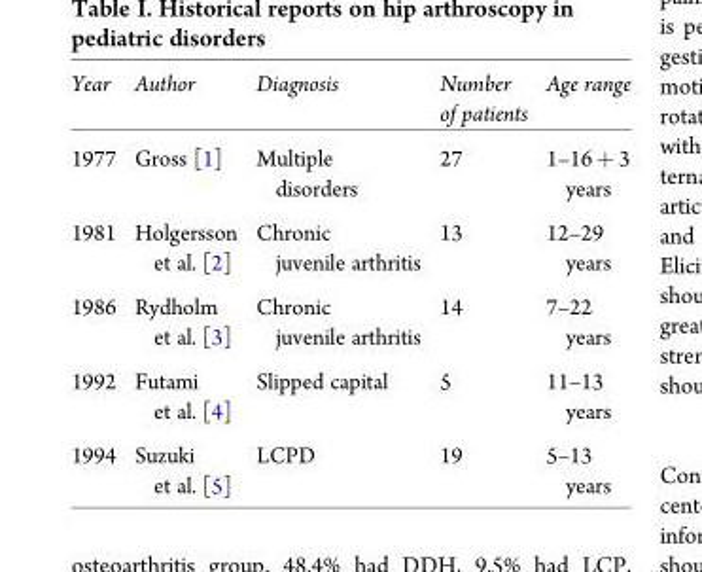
<table><thead><tr><td>Year</td><td>Author</td><td>Diagnosis</td><td>Number of patients</td><td>Age range</td></tr></thead><tbody><tr><td>1977</td><td>Gross [1]</td><td>Multiple disorders</td><td>27</td><td>1–16 + 3 years</td></tr><tr><td>1981</td><td>Holgersson et al. [2]</td><td>Chronic juvenile arthritis</td><td>13</td><td>12–29 years</td></tr><tr><td>1986</td><td>Rydholm et al. [3]</td><td>Chronic juvenile arthritis</td><td>14</td><td>7–22 years</td></tr><tr><td>1992</td><td>Futami et al. [4]</td><td>Slipped capital</td><td>5</td><td>11–13 years</td></tr><tr><td>1994</td><td>Suzuki et al. [5]</td><td>LCPD</td><td>19</td><td>5–13 years</td></tr></tbody></table>